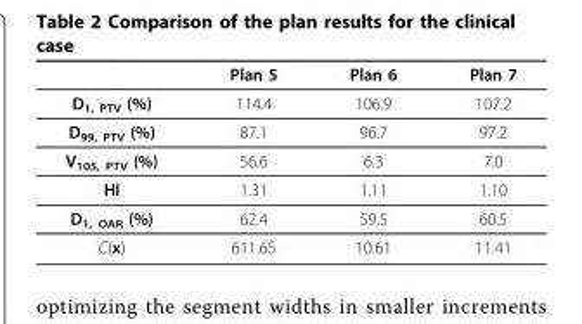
<table><thead><tr><td></td><td>Plan 5</td><td>Plan 6</td><td>Plan 7</td></tr></thead><tbody><tr><td>D<sub>1, PTV</sub> (%)</td><td>114.4</td><td>106.9</td><td>107.2</td></tr><tr><td>D<sub>99, PTV</sub> (%)</td><td>87.1</td><td>96.7</td><td>97.2</td></tr><tr><td>V<sub>105, PTV</sub> (%)</td><td>56.6</td><td>6.3</td><td>7.0</td></tr><tr><td>HI</td><td>1.31</td><td>1.11</td><td>1.10</td></tr><tr><td>D<sub>1, OAR</sub> (%)</td><td>62.4</td><td>59.5</td><td>60.5</td></tr><tr><td>C(x)</td><td>611.65</td><td>10.61</td><td>11.41</td></tr></tbody></table>